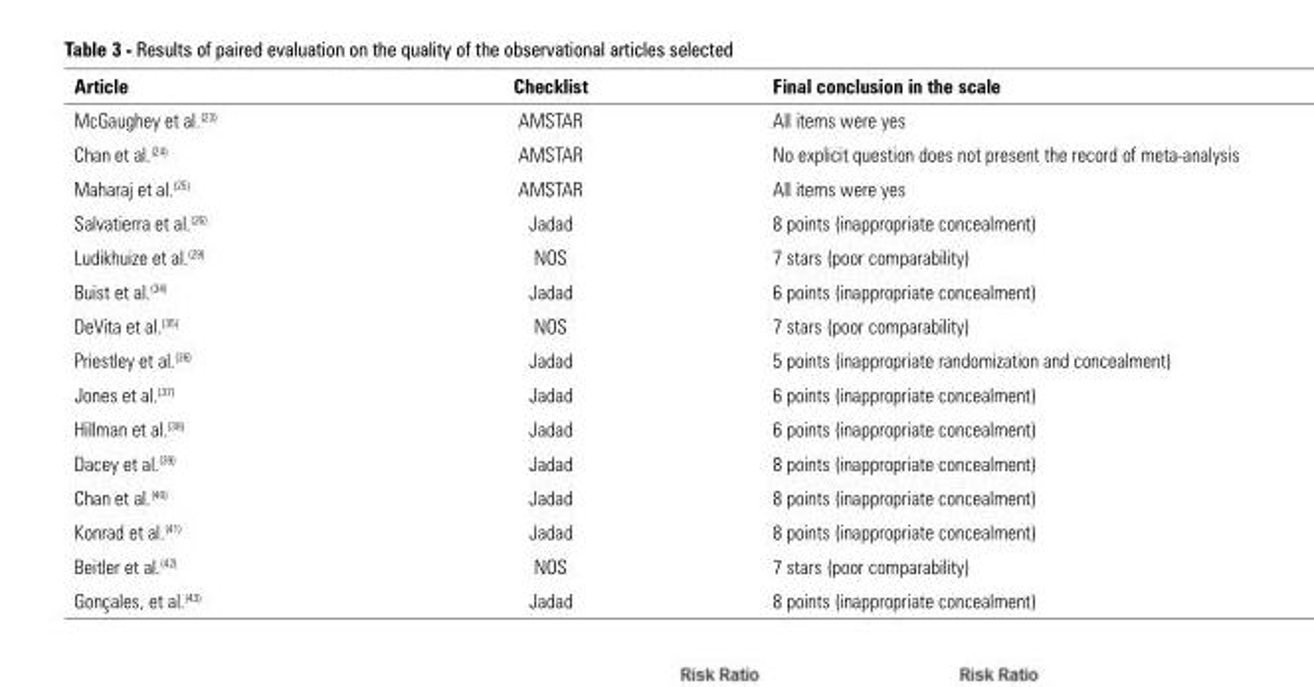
<table><thead><tr><td>Article</td><td>Checklist</td><td>Final conclusion in the scale</td></tr></thead><tbody><tr><td>McGaughey et al.<sup>(23)</sup></td><td>AMSTAR</td><td>All items were yes</td></tr><tr><td>Chan et al.<sup>(24)</sup></td><td>AMSTAR</td><td>No explicit question does not present the record of meta-analysis</td></tr><tr><td>Maharaj et al.<sup>(25)</sup></td><td>AMSTAR</td><td>All items were yes</td></tr><tr><td>Salvatierra et al.<sup>(26)</sup></td><td>Jadad</td><td>8 points (inappropriate concealment)</td></tr><tr><td>Ludikhuize et al.<sup>(29)</sup></td><td>NOS</td><td>7 stars (poor comparability)</td></tr><tr><td>Buist et al.<sup>(34)</sup></td><td>Jadad</td><td>6 points (inappropriate concealment)</td></tr><tr><td>DeVita et al.<sup>(35)</sup></td><td>NOS</td><td>7 stars (poor comparability)</td></tr><tr><td>Priestley et al.<sup>(36)</sup></td><td>Jadad</td><td>5 points (inappropriate randomization and concealment)</td></tr><tr><td>Jones et al.<sup>(37)</sup></td><td>Jadad</td><td>6 points (inappropriate concealment)</td></tr><tr><td>Hillman et al.<sup>(38)</sup></td><td>Jadad</td><td>6 points (inappropriate concealment)</td></tr><tr><td>Dacey et al.<sup>(39)</sup></td><td>Jadad</td><td>8 points (inappropriate concealment)</td></tr><tr><td>Chan et al.<sup>(40)</sup></td><td>Jadad</td><td>8 points (inappropriate concealment)</td></tr><tr><td>Konrad et al.<sup>(41)</sup></td><td>Jadad</td><td>8 points (inappropriate concealment)</td></tr><tr><td>Beitler et al.<sup>(42)</sup></td><td>NOS</td><td>7 stars (poor comparability)</td></tr><tr><td>Gonçales, et al.(43)</td><td>Jadad</td><td>8 points (inappropriate concealment)</td></tr></tbody></table>